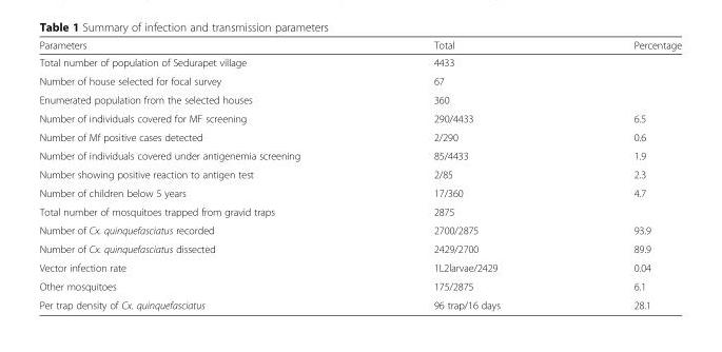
<table><thead><tr><td>Parameters</td><td>Total</td><td>Percentage</td></tr></thead><tbody><tr><td>Total number of population of Sedurapet village</td><td>4433</td><td></td></tr><tr><td>Number of house selected for focal survey</td><td>67</td><td></td></tr><tr><td>Enumerated population from the selected houses</td><td>360</td><td></td></tr><tr><td>Number of individuals covered for MF screening</td><td>290/4433</td><td>6.5</td></tr><tr><td>Number of Mf positive cases detected</td><td>2/290</td><td>0.6</td></tr><tr><td>Number of individuals covered under antigenemia screening</td><td>85/4433</td><td>1.9</td></tr><tr><td>Number showing positive reaction to antigen test</td><td>2/85</td><td>2.3</td></tr><tr><td>Number of children below 5 years</td><td>17/360</td><td>4.7</td></tr><tr><td>Total number of mosquitoes trapped from gravid traps</td><td>2875</td><td></td></tr><tr><td>Number of Cx. quinquefasciatus recorded</td><td>2700/2875</td><td>93.9</td></tr><tr><td>Number of Cx. quinquefasciatus dissected</td><td>2429/2700</td><td>89.9</td></tr><tr><td>Vector infection rate</td><td>1L2larvae/2429</td><td>0.04</td></tr><tr><td>Other mosquitoes</td><td>175/2875</td><td>6.1</td></tr><tr><td>Per trap density of Cx. quinquefasciatus</td><td>96 trap/16 days</td><td>28.1</td></tr></tbody></table>